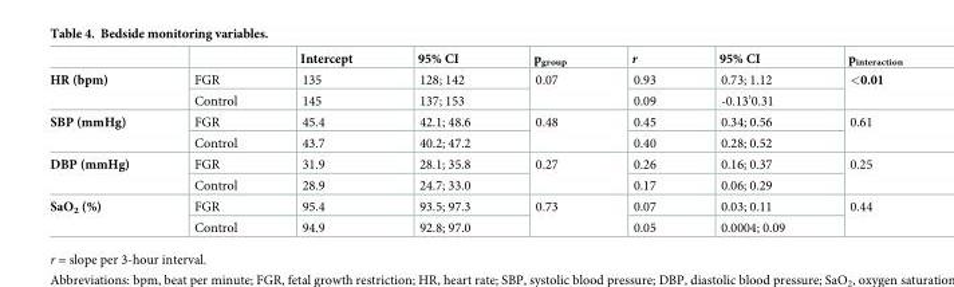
<table><thead><tr><td></td><td></td><td>Intercept</td><td>95% CI</td><td>p<sub>group</sub></td><td>r</td><td>95% CI</td><td>p<sub>interaction</sub></td></tr></thead><tbody><tr><td rowspan="2">HR (bpm)</td><td>FGR</td><td>135</td><td>128; 142</td><td rowspan="2">0.07</td><td>0.93</td><td>0.73; 1.12</td><td rowspan="2">&lt;0.01</td></tr><tr><td>Control</td><td>145</td><td>137; 153</td><td>0.09</td><td>-0.13’0.31</td></tr><tr><td rowspan="2">SBP (mmHg)</td><td>FGR</td><td>45.4</td><td>42.1; 48.6</td><td rowspan="2">0.48</td><td>0.45</td><td>0.34; 0.56</td><td rowspan="2">0.61</td></tr><tr><td>Control</td><td>43.7</td><td>40.2; 47.2</td><td>0.40</td><td>0.28; 0.52</td></tr><tr><td rowspan="2">DBP (mmHg)</td><td>FGR</td><td>31.9</td><td>28.1; 35.8</td><td rowspan="2">0.27</td><td>0.26</td><td>0.16; 0.37</td><td rowspan="2">0.25</td></tr><tr><td>Control</td><td>28.9</td><td>24.7; 33.0</td><td>0.17</td><td>0.06; 0.29</td></tr><tr><td rowspan="2">SaO<sub>2</sub> (%)</td><td>FGR</td><td>95.4</td><td>93.5; 97.3</td><td rowspan="2">0.73</td><td>0.07</td><td>0.03; 0.11</td><td rowspan="2">0.44</td></tr><tr><td>Control</td><td>94.9</td><td>92.8; 97.0</td><td>0.05</td><td>0.0004; 0.09</td></tr></tbody></table>